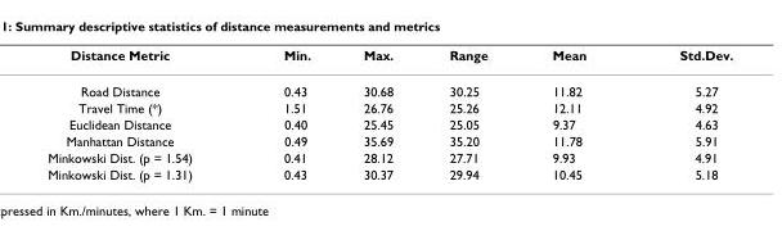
<table><thead><tr><td>Distance Metric</td><td>Min.</td><td>Max.</td><td>Range</td><td>Mean</td><td>Std.Dev.</td></tr></thead><tbody><tr><td>Road Distance</td><td>0.43</td><td>30.68</td><td>30.25</td><td>11.82</td><td>5.27</td></tr><tr><td>Travel Time (*)</td><td>1.51</td><td>26.76</td><td>25.26</td><td>12.11</td><td>4.92</td></tr><tr><td>Euclidean Distance</td><td>0.40</td><td>25.45</td><td>25.05</td><td>9.37</td><td>4.63</td></tr><tr><td>Manhattan Distance</td><td>0.49</td><td>35.69</td><td>35.20</td><td>11.78</td><td>5.91</td></tr><tr><td>Minkowski Dist. (p = 1.54)</td><td>0.41</td><td>28.12</td><td>27.71</td><td>9.93</td><td>4.91</td></tr><tr><td>Minkowski Dist. (p = 1.31)</td><td>0.43</td><td>30.37</td><td>29.94</td><td>10.45</td><td>5.18</td></tr></tbody></table>